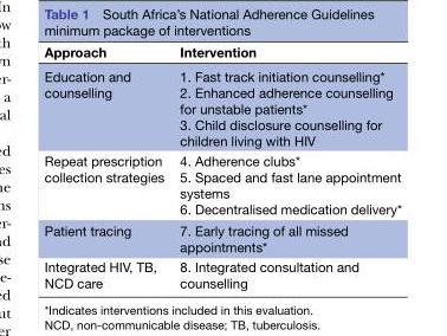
<table><thead><tr><td>Approach</td><td>Intervention</td></tr></thead><tbody><tr><td>Education and counselling</td><td>1. Fast track initiation counselling* 2. Enhanced adherence counselling for unstable patients* 3. Child disclosure counselling for children living with HIV</td></tr><tr><td>Repeat prescription collection strategies</td><td>4. Adherence clubs* 5. Spaced and fast lane appointment systems 6. Decentralised medication delivery*</td></tr><tr><td>Patient tracing</td><td>7. Early tracing of all missed appointments*</td></tr><tr><td>Integrated HIV, TB, NCD care</td><td>8. Integrated consultation and counselling</td></tr></tbody></table>